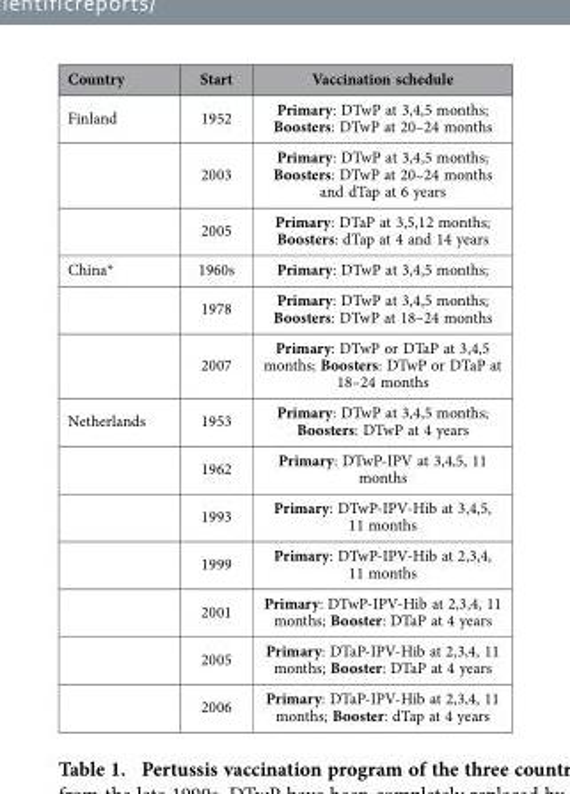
<table><thead><tr><td>Country</td><td>Start</td><td>Vaccination schedule</td></tr></thead><tbody><tr><td rowspan="3">Finland</td><td>1952</td><td>Primary: DTwP at 3,4,5 months; Boosters: DTwP at 20–24 months</td></tr><tr><td>2003</td><td>Primary: DTwP at 3,4,5 months; Boosters: DTwP at 20–24 months and dTap at 6 years</td></tr><tr><td>2005</td><td>Primary: DTaP at 3,5,12 months; Boosters: dTap at 4 and 14 years</td></tr><tr><td rowspan="3">China*</td><td>1960s</td><td>Primary: DTwP at 3,4,5 months;</td></tr><tr><td>1978</td><td>Primary: DTwP at 3,4,5 months; Boosters: DTwP at 18–24 months</td></tr><tr><td>2007</td><td>Primary: DTwP or DTaP at 3,4,5 months; Boosters: DTwP or DTaP at 18–24 months</td></tr><tr><td rowspan="7">Netherlands</td><td>1953</td><td>Primary: DTwP at 3,4,5 months; Boosters: DTwP at 4 years</td></tr><tr><td>1962</td><td>Primary: DTwP-IPV at 3,4,5, 11 months</td></tr><tr><td>1993</td><td>Primary: DTwP-IPV-Hib at 3,4,5, 11 months</td></tr><tr><td>1999</td><td>Primary: DTwP-IPV-Hib at 2,3,4, 11 months</td></tr><tr><td>2001</td><td>Primary: DTwP-IPV-Hib at 2,3,4, 11 months; Booster: DTaP at 4 years</td></tr><tr><td>2005</td><td>Primary: DTaP-IPV-Hib at 2,3,4, 11 months; Booster: DTaP at 4 years</td></tr><tr><td>2006</td><td>Primary: DTaP-IPV-Hib at 2,3,4, 11 months; Booster: dTap at 4 years</td></tr></tbody></table>